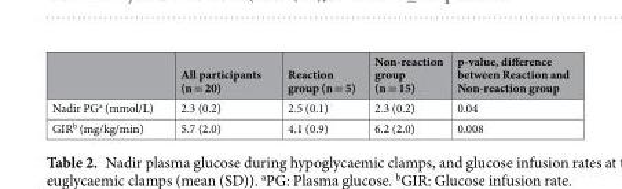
<table><thead><tr><td></td><td>All participants (n = 20)</td><td>Reaction group (n = 5)</td><td>Non-reaction group (n = 15)</td><td>p-value, difference between Reaction and Non-reaction group</td></tr></thead><tbody><tr><td>Nadir PG<sup>a</sup> (mmol/L)</td><td>2.3 (0.2)</td><td>2.5 (0.1)</td><td>2.3 (0.2)</td><td>0.04</td></tr><tr><td>GIR<sup>b</sup> (mg/kg/min)</td><td>5.7 (2.0)</td><td>4.1 (0.9)</td><td>6.2 (2.0)</td><td>0.008</td></tr></tbody></table>